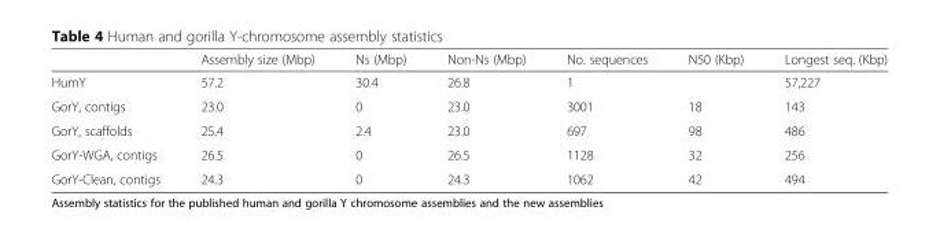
<table><thead><tr><td></td><td>Assembly size (Mbp)</td><td>Ns (Mbp)</td><td>Non-Ns (Mbp)</td><td>No. sequences</td><td>N50 (Kbp)</td><td>Longest seq. (Kbp)</td></tr></thead><tbody><tr><td>HumY</td><td>57.2</td><td>30.4</td><td>26.8</td><td>1</td><td></td><td>57,227</td></tr><tr><td>GorY, contigs</td><td>23.0</td><td>0</td><td>23.0</td><td>3001</td><td>18</td><td>143</td></tr><tr><td>GorY, scaffolds</td><td>25.4</td><td>2.4</td><td>23.0</td><td>697</td><td>98</td><td>486</td></tr><tr><td>GorY-WGA, contigs</td><td>26.5</td><td>0</td><td>26.5</td><td>1128</td><td>32</td><td>256</td></tr><tr><td>GorY-Clean, contigs</td><td>24.3</td><td>0</td><td>24.3</td><td>1062</td><td>42</td><td>494</td></tr></tbody></table>